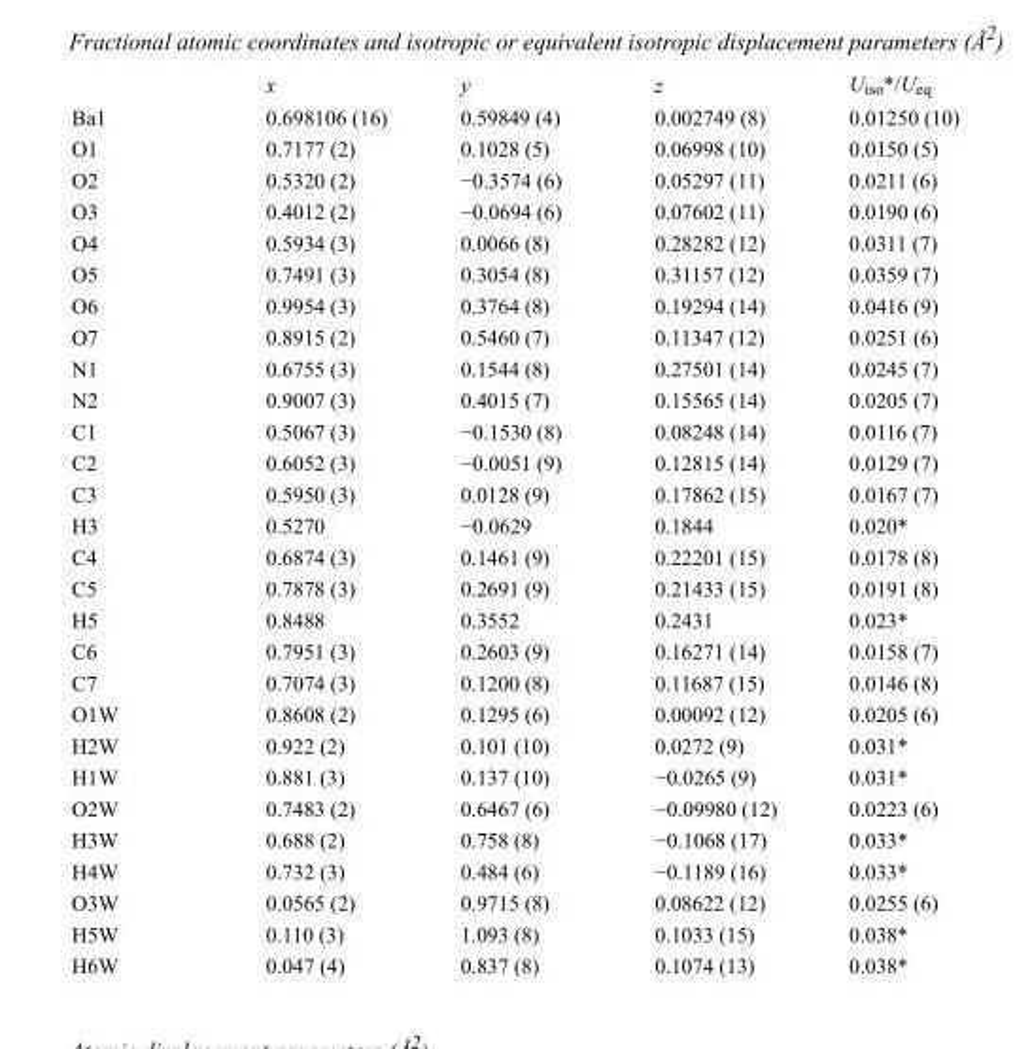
<table><thead><tr><td></td><td>x</td><td>y</td><td>z</td><td>U<sub>iso</sub>*/U<sub>eq</sub></td></tr></thead><tbody><tr><td>Ba1</td><td>0.698106 (16)</td><td>0.59849 (4)</td><td>0.002749 (8)</td><td>0.01250 (10)</td></tr><tr><td>O1</td><td>0.7177 (2)</td><td>0.1028 (5)</td><td>0.06998 (10)</td><td>0.0150 (5)</td></tr><tr><td>O2</td><td>0.5320 (2)</td><td>−0.3574 (6)</td><td>0.05297 (11)</td><td>0.0211 (6)</td></tr><tr><td>O3</td><td>0.4012 (2)</td><td>−0.0694 (6)</td><td>0.07602 (11)</td><td>0.0190 (6)</td></tr><tr><td>O4</td><td>0.5934 (3)</td><td>0.0066 (8)</td><td>0.28282 (12)</td><td>0.0311 (7)</td></tr><tr><td>O5</td><td>0.7491 (3)</td><td>0.3054 (8)</td><td>0.31157 (12)</td><td>0.0359 (7)</td></tr><tr><td>O6</td><td>0.9954 (3)</td><td>0.3764 (8)</td><td>0.19294 (14)</td><td>0.0416 (9)</td></tr><tr><td>O7</td><td>0.8915 (2)</td><td>0.5460 (7)</td><td>0.11347 (12)</td><td>0.0251 (6)</td></tr><tr><td>N1</td><td>0.6755 (3)</td><td>0.1544 (8)</td><td>0.27501 (14)</td><td>0.0245 (7)</td></tr><tr><td>N2</td><td>0.9007 (3)</td><td>0.4015 (7)</td><td>0.15565 (14)</td><td>0.0205 (7)</td></tr><tr><td>C1</td><td>0.5067 (3)</td><td>−0.1530 (8)</td><td>0.08248 (14)</td><td>0.0116 (7)</td></tr><tr><td>C2</td><td>0.6052 (3)</td><td>−0.0051 (9)</td><td>0.12815 (14)</td><td>0.0129 (7)</td></tr><tr><td>C3</td><td>0.5950 (3)</td><td>0.0128 (9)</td><td>0.17862 (15)</td><td>0.0167 (7)</td></tr><tr><td>H3</td><td>0.5270</td><td>−0.0629</td><td>0.1844</td><td>0.020*</td></tr><tr><td>C4</td><td>0.6874 (3)</td><td>0.1461 (9)</td><td>0.22201 (15)</td><td>0.0178 (8)</td></tr><tr><td>C5</td><td>0.7878 (3)</td><td>0.2691 (9)</td><td>0.21433 (15)</td><td>0.0191 (8)</td></tr><tr><td>H5</td><td>0.8488</td><td>0.3552</td><td>0.2431</td><td>0.023*</td></tr><tr><td>C6</td><td>0.7951 (3)</td><td>0.2603 (9)</td><td>0.16271 (14)</td><td>0.0158 (7)</td></tr><tr><td>C7</td><td>0.7074 (3)</td><td>0.1200 (8)</td><td>0.11687 (15)</td><td>0.0146 (8)</td></tr><tr><td>O1W</td><td>0.8608 (2)</td><td>0.1295 (6)</td><td>0.00092 (12)</td><td>0.0205 (6)</td></tr><tr><td>H2W</td><td>0.922 (2)</td><td>0.101 (10)</td><td>0.0272 (9)</td><td>0.031*</td></tr><tr><td>H1W</td><td>0.881 (3)</td><td>0.137 (10)</td><td>−0.0265 (9)</td><td>0.031*</td></tr><tr><td>O2W</td><td>0.7483 (2)</td><td>0.6467 (6)</td><td>−0.09980 (12)</td><td>0.0223 (6)</td></tr><tr><td>H3W</td><td>0.688 (2)</td><td>0.758 (8)</td><td>−0.1068 (17)</td><td>0.033*</td></tr><tr><td>H4W</td><td>0.732 (3)</td><td>0.484 (6)</td><td>−0.1189 (16)</td><td>0.033*</td></tr><tr><td>O3W</td><td>0.0565 (2)</td><td>0.9715 (8)</td><td>0.08622 (12)</td><td>0.0255 (6)</td></tr><tr><td>H5W</td><td>0.110 (3)</td><td>1.093 (8)</td><td>0.1033 (15)</td><td>0.038*</td></tr><tr><td>H6W</td><td>0.047 (4)</td><td>0.837 (8)</td><td>0.1074 (13)</td><td>0.038*</td></tr></tbody></table>